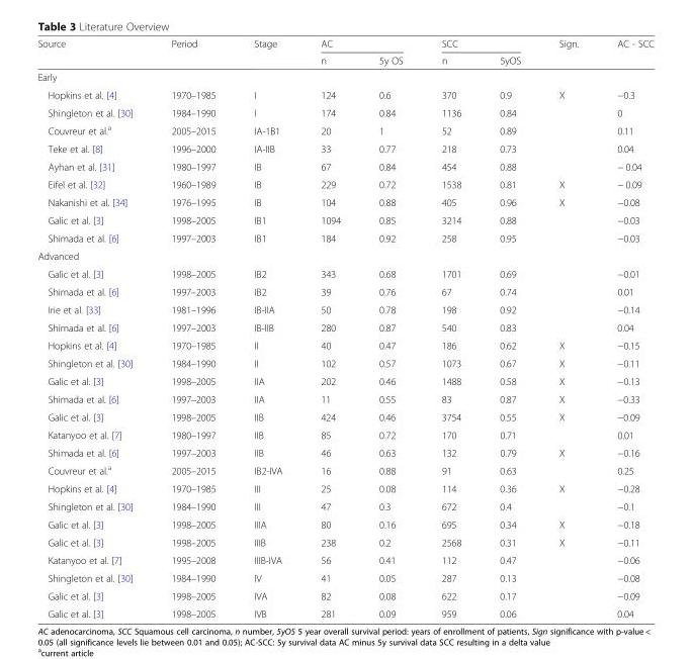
<table><thead><tr><td rowspan="2">Source</td><td rowspan="2">Period</td><td rowspan="2">Stage</td><td colspan="2">AC</td><td colspan="2">SCC</td><td rowspan="2">Sign.</td><td rowspan="2">AC - SCC</td></tr><tr><td>n</td><td>5y OS</td><td>n</td><td>5yOS</td></tr></thead><tbody><tr><td colspan="9">Early</td></tr><tr><td>Hopkins et al. [4]</td><td>1970–1985</td><td>I</td><td>124</td><td>0.6</td><td>370</td><td>0.9</td><td>X</td><td>−0.3</td></tr><tr><td>Shingleton et al. [30]</td><td>1984–1990</td><td>I</td><td>174</td><td>0.84</td><td>1136</td><td>0.84</td><td></td><td>0</td></tr><tr><td>Couvreur et al.<sup>a</sup></td><td>2005–2015</td><td>IA-1B1</td><td>20</td><td>1</td><td>52</td><td>0.89</td><td></td><td>0.11</td></tr><tr><td>Teke et al. [8]</td><td>1996–2000</td><td>IA-IIB</td><td>33</td><td>0.77</td><td>218</td><td>0.73</td><td></td><td>0.04</td></tr><tr><td>Ayhan et al. [31]</td><td>1980–1997</td><td>IB</td><td>67</td><td>0.84</td><td>454</td><td>0.88</td><td></td><td>− 0.04</td></tr><tr><td>Eifel et al. [32]</td><td>1960–1989</td><td>IB</td><td>229</td><td>0.72</td><td>1538</td><td>0.81</td><td>X</td><td>− 0.09</td></tr><tr><td>Nakanishi et al. [34]</td><td>1976–1995</td><td>IB</td><td>104</td><td>0.88</td><td>405</td><td>0.96</td><td>X</td><td>−0.08</td></tr><tr><td>Galic et al. [3]</td><td>1998–2005</td><td>IB1</td><td>1094</td><td>0.85</td><td>3214</td><td>0.88</td><td></td><td>−0.03</td></tr><tr><td>Shimada et al. [6]</td><td>1997–2003</td><td>IB1</td><td>184</td><td>0.92</td><td>258</td><td>0.95</td><td></td><td>−0.03</td></tr><tr><td colspan="9">Advanced</td></tr><tr><td>Galic et al. [3]</td><td>1998–2005</td><td>IB2</td><td>343</td><td>0.68</td><td>1701</td><td>0.69</td><td></td><td>−0.01</td></tr><tr><td>Shimada et al. [6]</td><td>1997–2003</td><td>IB2</td><td>39</td><td>0.76</td><td>67</td><td>0.74</td><td></td><td>0.01</td></tr><tr><td>Irie et al. [33]</td><td>1981–1996</td><td>IB-IIA</td><td>50</td><td>0.78</td><td>198</td><td>0.92</td><td></td><td>−0.14</td></tr><tr><td>Shimada et al. [6]</td><td>1997–2003</td><td>IB-IIB</td><td>280</td><td>0.87</td><td>540</td><td>0.83</td><td></td><td>0.04</td></tr><tr><td>Hopkins et al. [4]</td><td>1970–1985</td><td>II</td><td>40</td><td>0.47</td><td>186</td><td>0.62</td><td>X</td><td>−0.15</td></tr><tr><td>Shingleton et al. [30]</td><td>1984–1990</td><td>II</td><td>102</td><td>0.57</td><td>1073</td><td>0.67</td><td>X</td><td>−0.11</td></tr><tr><td>Galic et al. [3]</td><td>1998–2005</td><td>IIA</td><td>202</td><td>0.46</td><td>1488</td><td>0.58</td><td>X</td><td>−0.13</td></tr><tr><td>Shimada et al. [6]</td><td>1997–2003</td><td>IIA</td><td>11</td><td>0.55</td><td>83</td><td>0.87</td><td>X</td><td>−0.33</td></tr><tr><td>Galic et al. [3]</td><td>1998–2005</td><td>IIB</td><td>424</td><td>0.46</td><td>3754</td><td>0.55</td><td>X</td><td>−0.09</td></tr><tr><td>Katanyoo et al. [7]</td><td>1980–1997</td><td>IIB</td><td>85</td><td>0.72</td><td>170</td><td>0.71</td><td></td><td>0.01</td></tr><tr><td>Shimada et al. [6]</td><td>1997–2003</td><td>IIB</td><td>46</td><td>0.63</td><td>132</td><td>0.79</td><td>X</td><td>−0.16</td></tr><tr><td>Couvreur et al.<sup>a</sup></td><td>2005–2015</td><td>IB2-IVA</td><td>16</td><td>0.88</td><td>91</td><td>0.63</td><td></td><td>0.25</td></tr><tr><td>Hopkins et al. [4]</td><td>1970–1985</td><td>III</td><td>25</td><td>0.08</td><td>114</td><td>0.36</td><td>X</td><td>−0.28</td></tr><tr><td>Shingleton et al. [30]</td><td>1984–1990</td><td>III</td><td>47</td><td>0.3</td><td>672</td><td>0.4</td><td></td><td>−0.1</td></tr><tr><td>Galic et al. [3]</td><td>1998–2005</td><td>IIIA</td><td>80</td><td>0.16</td><td>695</td><td>0.34</td><td>X</td><td>−0.18</td></tr><tr><td>Galic et al. [3]</td><td>1998–2005</td><td>IIIB</td><td>238</td><td>0.2</td><td>2568</td><td>0.31</td><td>X</td><td>−0.11</td></tr><tr><td>Katanyoo et al. [7]</td><td>1995–2008</td><td>IIIB-IVA</td><td>56</td><td>0.41</td><td>112</td><td>0.47</td><td></td><td>−0.06</td></tr><tr><td>Shingleton et al. [30]</td><td>1984–1990</td><td>IV</td><td>41</td><td>0.05</td><td>287</td><td>0.13</td><td></td><td>−0.08</td></tr><tr><td>Galic et al. [3]</td><td>1998–2005</td><td>IVA</td><td>82</td><td>0.08</td><td>622</td><td>0.17</td><td></td><td>−0.09</td></tr><tr><td>Galic et al. [3]</td><td>1998–2005</td><td>IVB</td><td>281</td><td>0.09</td><td>959</td><td>0.06</td><td></td><td>0.04</td></tr></tbody></table>